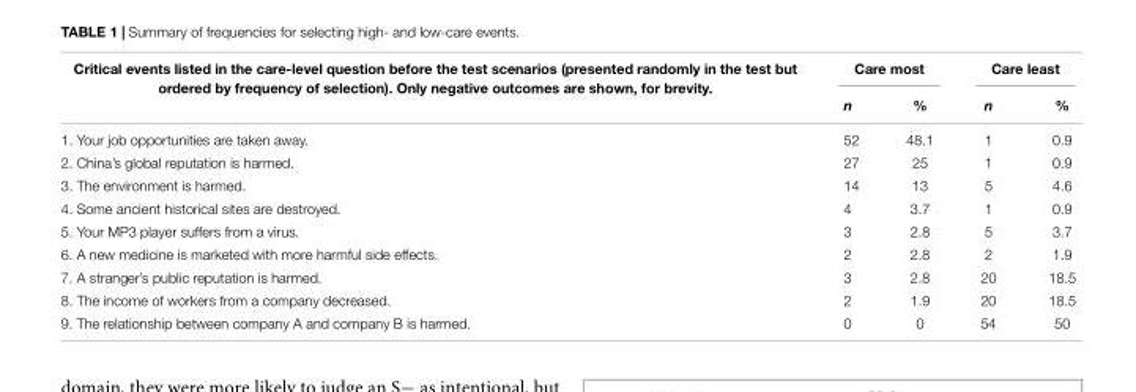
<table><thead><tr><td rowspan="2">Critical events listed in the care-level question before the test scenarios (presented randomly in the test but ordered by frequency of selection). Only negative outcomes are shown, for brevity.</td><td colspan="2">Care most</td><td colspan="2">Care least</td></tr><tr><td>n</td><td>%</td><td>n</td><td>%</td></tr></thead><tbody><tr><td>1. Your job opportunities are taken away.</td><td>52</td><td>48.1</td><td>1</td><td>0.9</td></tr><tr><td>2. China’s global reputation is harmed.</td><td>27</td><td>25</td><td>1</td><td>0.9</td></tr><tr><td>3. The environment is harmed.</td><td>14</td><td>13</td><td>5</td><td>4.6</td></tr><tr><td>4. Some ancient historical sites are destroyed.</td><td>4</td><td>3.7</td><td>1</td><td>0.9</td></tr><tr><td>5. Your MP3 player suffers from a virus.</td><td>3</td><td>2.8</td><td>5</td><td>3.7</td></tr><tr><td>6. A new medicine is marketed with more harmful side effects.</td><td>2</td><td>2.8</td><td>2</td><td>1.9</td></tr><tr><td>7. A stranger’s public reputation is harmed.</td><td>3</td><td>2.8</td><td>20</td><td>18.5</td></tr><tr><td>8. The income of workers from a company decreased.</td><td>2</td><td>1.9</td><td>20</td><td>18.5</td></tr><tr><td>9. The relationship between company A and company B is harmed.</td><td>0</td><td>0</td><td>54</td><td>50</td></tr></tbody></table>